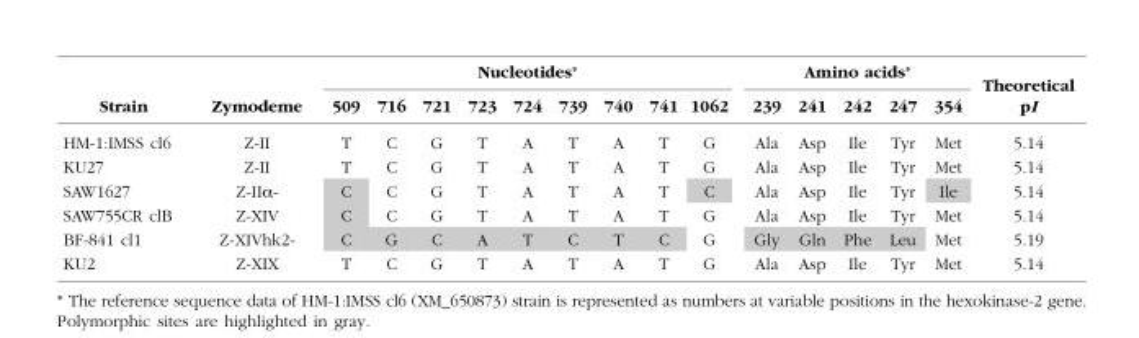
<table><thead><tr><td rowspan="2">Strain</td><td rowspan="2">Zymodeme</td><td colspan="9">Nucleotides*</td><td colspan="5">Amino acids*</td><td rowspan="2">Theoretical pI</td></tr><tr><td>509</td><td>716</td><td>721</td><td>723</td><td>724</td><td>739</td><td>740</td><td>741</td><td>1062</td><td>239</td><td>241</td><td>242</td><td>247</td><td>354</td></tr></thead><tbody><tr><td>HM-1:IMSS cl6</td><td>Z-II</td><td>T</td><td>C</td><td>G</td><td>T</td><td>A</td><td>T</td><td>A</td><td>T</td><td>G</td><td>Ala</td><td>Asp</td><td>Ile</td><td>Tyr</td><td>Met</td><td>5.14</td></tr><tr><td>KU27</td><td>Z-II</td><td>T</td><td>C</td><td>G</td><td>T</td><td>A</td><td>T</td><td>A</td><td>T</td><td>G</td><td>Ala</td><td>Asp</td><td>Ile</td><td>Tyr</td><td>Met</td><td>5.14</td></tr><tr><td>SAW1627</td><td>Z-IIα-</td><td>C</td><td>C</td><td>G</td><td>T</td><td>A</td><td>T</td><td>A</td><td>T</td><td>C</td><td>Ala</td><td>Asp</td><td>Ile</td><td>Tyr</td><td>Ile</td><td>5.14</td></tr><tr><td>SAW755CR clB</td><td>Z-XIV</td><td>C</td><td>C</td><td>G</td><td>T</td><td>A</td><td>T</td><td>A</td><td>T</td><td>G</td><td>Ala</td><td>Asp</td><td>Ile</td><td>Tyr</td><td>Met</td><td>5.14</td></tr><tr><td>BF-841 cl1</td><td>Z-XIVhk2-</td><td>C</td><td>G</td><td>C</td><td>A</td><td>T</td><td>C</td><td>T</td><td>C</td><td>G</td><td>Gly</td><td>Gln</td><td>Phe</td><td>Leu</td><td>Met</td><td>5.19</td></tr><tr><td>KU2</td><td>Z-XIX</td><td>T</td><td>C</td><td>G</td><td>T</td><td>A</td><td>T</td><td>A</td><td>T</td><td>G</td><td>Ala</td><td>Asp</td><td>Ile</td><td>Tyr</td><td>Met</td><td>5.14</td></tr></tbody></table>